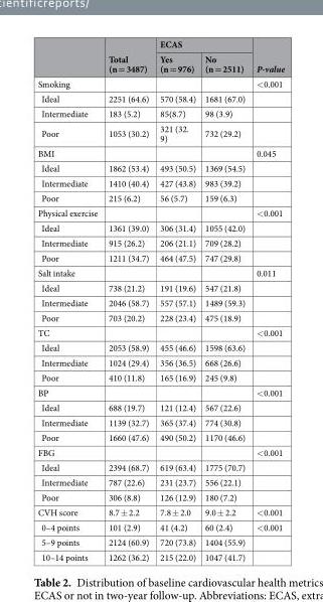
<table><thead><tr><td rowspan="2"></td><td rowspan="2">Total (n = 3487)</td><td colspan="2">ECAS</td><td rowspan="2">P-value</td></tr><tr><td>Yes (n = 976)</td><td>No (n = 2511)</td></tr></thead><tbody><tr><td>Smoking</td><td></td><td></td><td></td><td>&lt;0.001</td></tr><tr><td>Ideal</td><td>2251 (64.6)</td><td>570 (58.4)</td><td>1681 (67.0)</td><td></td></tr><tr><td>Intermediate</td><td>183 (5.2)</td><td>85(8.7)</td><td>98 (3.9)</td><td></td></tr><tr><td>Poor</td><td>1053 (30.2)</td><td>321 (32. 9)</td><td>732 (29.2)</td><td></td></tr><tr><td>BMI</td><td></td><td></td><td></td><td>0.045</td></tr><tr><td>Ideal</td><td>1862 (53.4)</td><td>493 (50.5)</td><td>1369 (54.5)</td><td></td></tr><tr><td>Intermediate</td><td>1410 (40.4)</td><td>427 (43.8)</td><td>983 (39.2)</td><td></td></tr><tr><td>Poor</td><td>215 (6.2)</td><td>56 (5.7)</td><td>159 (6.3)</td><td></td></tr><tr><td>Physical exercise</td><td></td><td></td><td></td><td>&lt;0.001</td></tr><tr><td>Ideal</td><td>1361 (39.0)</td><td>306 (31.4)</td><td>1055 (42.0)</td><td></td></tr><tr><td>Intermediate</td><td>915 (26.2)</td><td>206 (21.1)</td><td>709 (28.2)</td><td></td></tr><tr><td>Poor</td><td>1211 (34.7)</td><td>464 (47.5)</td><td>747 (29.8)</td><td></td></tr><tr><td>Salt intake</td><td></td><td></td><td></td><td>0.011</td></tr><tr><td>Ideal</td><td>738 (21.2)</td><td>191 (19.6)</td><td>547 (21.8)</td><td></td></tr><tr><td>Intermediate</td><td>2046 (58.7)</td><td>557 (57.1)</td><td>1489 (59.3)</td><td></td></tr><tr><td>Poor</td><td>703 (20.2)</td><td>228 (23.4)</td><td>475 (18.9)</td><td></td></tr><tr><td>TC</td><td></td><td></td><td></td><td>&lt;0.001</td></tr><tr><td>Ideal</td><td>2053 (58.9)</td><td>455 (46.6)</td><td>1598 (63.6)</td><td></td></tr><tr><td>Intermediate</td><td>1024 (29.4)</td><td>356 (36.5)</td><td>668 (26.6)</td><td></td></tr><tr><td>Poor</td><td>410 (11.8)</td><td>165 (16.9)</td><td>245 (9.8)</td><td></td></tr><tr><td>BP</td><td></td><td></td><td></td><td>&lt;0.001</td></tr><tr><td>Ideal</td><td>688 (19.7)</td><td>121 (12.4)</td><td>567 (22.6)</td><td></td></tr><tr><td>Intermediate</td><td>1139 (32.7)</td><td>365 (37.4)</td><td>774 (30.8)</td><td></td></tr><tr><td>Poor</td><td>1660 (47.6)</td><td>490 (50.2)</td><td>1170 (46.6)</td><td></td></tr><tr><td>FBG</td><td></td><td></td><td></td><td>&lt;0.001</td></tr><tr><td>Ideal</td><td>2394 (68.7)</td><td>619 (63.4)</td><td>1775 (70.7)</td><td></td></tr><tr><td>Intermediate</td><td>787 (22.6)</td><td>231 (23.7)</td><td>556 (22.1)</td><td></td></tr><tr><td>Poor</td><td>306 (8.8)</td><td>126 (12.9)</td><td>180 (7.2)</td><td></td></tr><tr><td>CVH score</td><td>8.7 ± 2.2</td><td>7.8 ± 2.0</td><td>9.0 ± 2.2</td><td>&lt;0.001</td></tr><tr><td>0–4 points</td><td>101 (2.9)</td><td>41 (4.2)</td><td>60 (2.4)</td><td>&lt;0.001</td></tr><tr><td>5–9 points</td><td>2124 (60.9)</td><td>720 (73.8)</td><td>1404 (55.9)</td><td></td></tr><tr><td>10–14 points</td><td>1262 (36.2)</td><td>215 (22.0)</td><td>1047 (41.7)</td><td></td></tr></tbody></table>